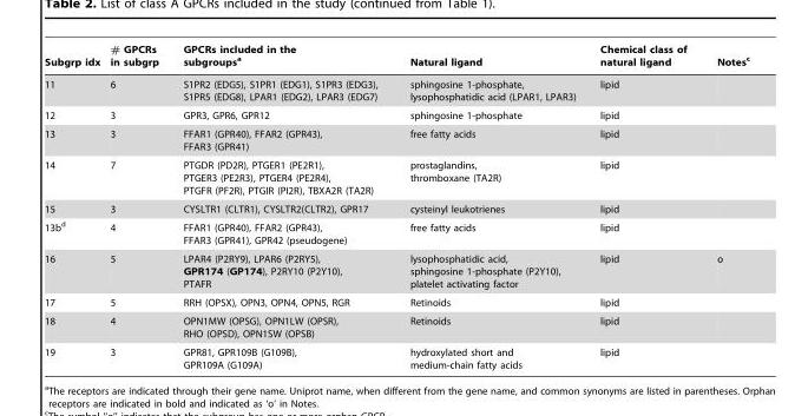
<table><thead><tr><td>Subgrp idx</td><td># GPCRs in subgrp</td><td>GPCRs included in the subgroups<sup>a</sup></td><td>Natural ligand</td><td>Chemical class of natural ligand</td><td>Notes<sup>c</sup></td></tr></thead><tbody><tr><td>11</td><td>6</td><td>S1PR2 (EDG5), S1PR1 (EDG1), S1PR3 (EDG3), S1PR5 (EDG8), LPAR1 (EDG2), LPAR3 (EDG7)</td><td>sphingosine 1-phosphate, lysophosphatidic acid (LPAR1, LPAR3)</td><td>lipid</td><td></td></tr><tr><td>12</td><td>3</td><td>GPR3, GPR6, GPR12</td><td>sphingosine 1-phosphate</td><td>lipid</td><td></td></tr><tr><td>13</td><td>3</td><td>FFAR1 (GPR40), FFAR2 (GPR43), FFAR3 (GPR41)</td><td>free fatty acids</td><td>lipid</td><td></td></tr><tr><td>14</td><td>7</td><td>PTGDR (PD2R), PTGER1 (PE2R1), PTGER3 (PE2R3), PTGER4 (PE2R4), PTGFR (PF2R), PTGIR (PI2R), TBXA2R (TA2R)</td><td>prostaglandins, thromboxane (TA2R)</td><td>lipid</td><td></td></tr><tr><td>15</td><td>3</td><td>CYSLTR1 (CLTR1), CYSLTR2(CLTR2), GPR17</td><td>cysteinyl leukotrienes</td><td>lipid</td><td></td></tr><tr><td>13b<sup>d</sup></td><td>4</td><td>FFAR1 (GPR40), FFAR2 (GPR43), FFAR3 (GPR41), GPR42 (pseudogene)</td><td>free fatty acids</td><td>lipid</td><td></td></tr><tr><td>16</td><td>5</td><td>LPAR4 (P2RY9), LPAR6 (P2RY5), GPR174 (GP174), P2RY10 (P2Y10), PTAFR</td><td>lysophosphatidic acid, sphingosine 1-phosphate (P2Y10), platelet activating factor</td><td>lipid</td><td>o</td></tr><tr><td>17</td><td>5</td><td>RRH (OPSX), OPN3, OPN4, OPN5, RGR</td><td>Retinoids</td><td>lipid</td><td></td></tr><tr><td>18</td><td>4</td><td>OPN1MW (OPSG), OPN1LW (OPSR), RHO (OPSD), OPN1SW (OPSB)</td><td>Retinoids</td><td>lipid</td><td></td></tr><tr><td>19</td><td>3</td><td>GPR81, GPR109B (G109B), GPR109A (G109A)</td><td>hydroxylated short and medium-chain fatty acids</td><td>lipid</td><td></td></tr></tbody></table>